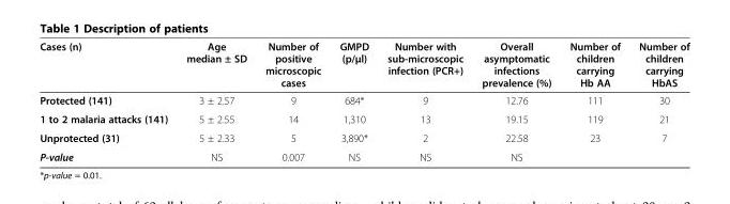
<table><thead><tr><td>Cases (n)</td><td>Age median ± SD</td><td>Number of positive microscopic cases</td><td>GMPD (p/μl)</td><td>Number with sub-microscopic infection (PCR+)</td><td>Overall asymptomatic infections prevalence (%)</td><td>Number of children carrying Hb AA</td><td>Number of children carrying HbAS</td></tr></thead><tbody><tr><td>Protected (141)</td><td>3 ± 2.57</td><td>9</td><td>684*</td><td>9</td><td>12.76</td><td>111</td><td>30</td></tr><tr><td>1 to 2 malaria attacks (141)</td><td>5 ± 2.55</td><td>14</td><td>1,310</td><td>13</td><td>19.15</td><td>119</td><td>21</td></tr><tr><td>Unprotected (31)</td><td>5 ± 2.33</td><td>5</td><td>3,890*</td><td>2</td><td>22.58</td><td>23</td><td>7</td></tr><tr><td>P-value</td><td>NS</td><td>0.007</td><td>NS</td><td>NS</td><td>NS</td><td></td><td></td></tr></tbody></table>